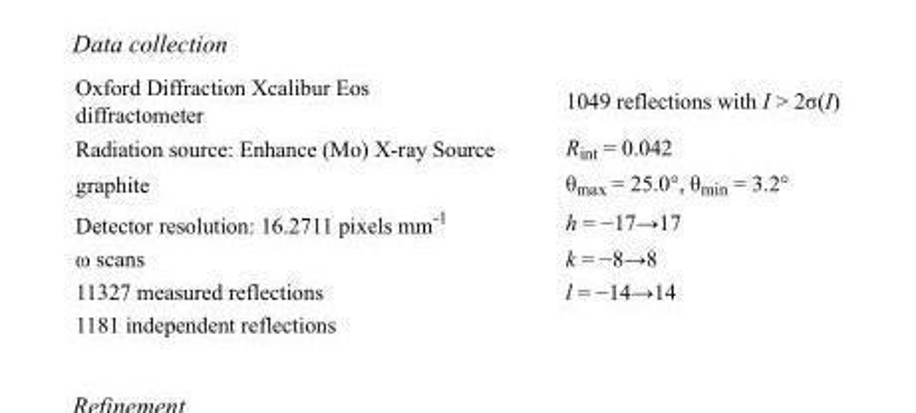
<table><tbody><tr><td>Oxford Diffraction Xcalibur Eos diffractometer</td><td>1049 reflections with I &gt; 2σ(I)</td></tr><tr><td>Radiation source: Enhance (Mo) X-ray Source</td><td>R<sub>int</sub> = 0.042</td></tr><tr><td>graphite</td><td>θ<sub>max</sub> = 25.0°, θ<sub>min</sub> = 3.2°</td></tr><tr><td>Detector resolution: 16.2711 pixels mm<sup>-1</sup></td><td>h = −17→17</td></tr><tr><td>ω scans</td><td>k = −8→8</td></tr><tr><td>11327 measured reflections</td><td>l = −14→14</td></tr><tr><td>1181 independent reflections</td><td></td></tr></tbody></table>